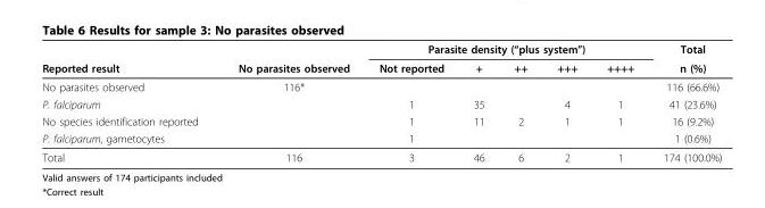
<table><thead><tr><td rowspan="2">Reported result</td><td rowspan="2">No parasites observed</td><td colspan="5">Parasite density (“plus system”)</td><td rowspan="2">Total n (%)</td></tr><tr><td>Not reported</td><td>+</td><td>++</td><td>+++</td><td>++++</td></tr></thead><tbody><tr><td>No parasites observed</td><td>116*</td><td></td><td></td><td></td><td></td><td></td><td>116 (66.6%)</td></tr><tr><td>P. falciparum</td><td></td><td>1</td><td>35</td><td></td><td>4</td><td>1</td><td>41 (23.6%)</td></tr><tr><td>No species identification reported</td><td></td><td>1</td><td>11</td><td>2</td><td>1</td><td>1</td><td>16 (9.2%)</td></tr><tr><td>P. falciparum, gametocytes</td><td></td><td>1</td><td></td><td></td><td></td><td></td><td>1 (0.6%)</td></tr><tr><td>Total</td><td>116</td><td>3</td><td>46</td><td>6</td><td>2</td><td>1</td><td>174 (100.0%)</td></tr></tbody></table>